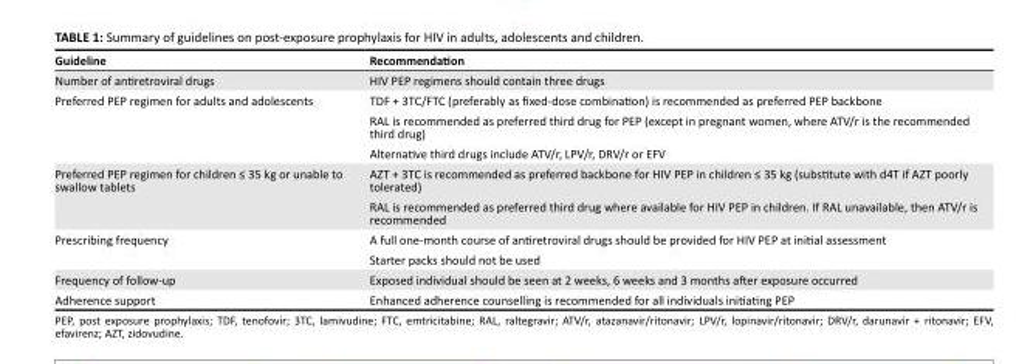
<table><thead><tr><td>Guideline</td><td>Recommendation</td></tr></thead><tbody><tr><td>Number of antiretroviral drugs</td><td>HIV PEP regimens should contain three drugs</td></tr><tr><td rowspan="3">Preferred PEP regimen for adults and adolescents</td><td>TDF + 3TC/FTC (preferably as fixed-dose combination) is recommended as preferred PEP backbone</td></tr><tr><td>RAL is recommended as preferred third drug for PEP (except in pregnant women, where ATV/r is the recommended third drug)</td></tr><tr><td>Alternative third drugs include ATV/r, LPV/r, DRV/r or EFV</td></tr><tr><td rowspan="2">Preferred PEP regimen for children ≤ 35 kg or unable to swallow tablets</td><td>AZT + 3TC is recommended as preferred backbone for HIV PEP in children ≤ 35 kg (substitute with d4T if AZT poorly tolerated)</td></tr><tr><td>RAL is recommended as preferred third drug where available for HIV PEP in children. If RAL unavailable, then ATV/r is recommended</td></tr><tr><td rowspan="2">Prescribing frequency</td><td>A full one-month course of antiretroviral drugs should be provided for HIV PEP at initial assessment</td></tr><tr><td>Starter packs should not be used</td></tr><tr><td>Frequency of follow-up</td><td>Exposed individual should be seen at 2 weeks, 6 weeks and 3 months after exposure occurred</td></tr><tr><td>Adherence support</td><td>Enhanced adherence counselling is recommended for all individuals initiating PEP</td></tr></tbody></table>